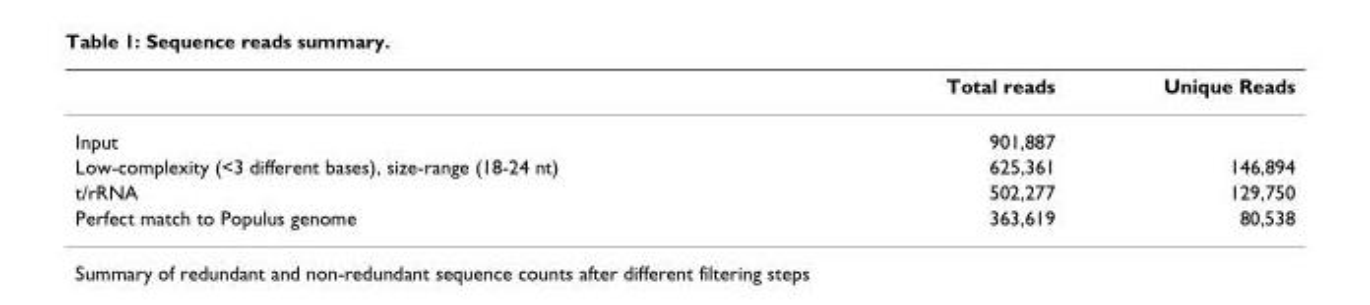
<table><thead><tr><td></td><td>Total reads</td><td>Unique Reads</td></tr></thead><tbody><tr><td>Input</td><td>901,887</td><td></td></tr><tr><td>Low-complexity (&lt;3 different bases), size-range (18-24 nt)</td><td>625,361</td><td>146,894</td></tr><tr><td>t/rRNA</td><td>502,277</td><td>129,750</td></tr><tr><td>Perfect match to Populus genome</td><td>363,619</td><td>80,538</td></tr></tbody></table>